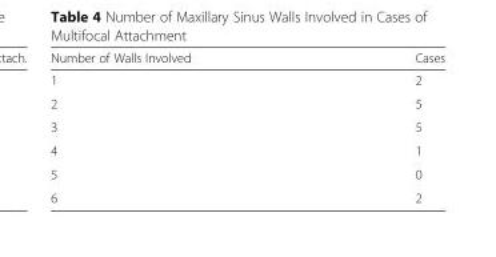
<table><thead><tr><td>Number of Walls Involved</td><td>Cases</td></tr></thead><tbody><tr><td>1</td><td>2</td></tr><tr><td>2</td><td>5</td></tr><tr><td>3</td><td>5</td></tr><tr><td>4</td><td>1</td></tr><tr><td>5</td><td>0</td></tr><tr><td>6</td><td>2</td></tr></tbody></table>